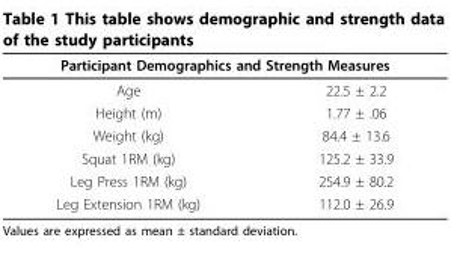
<table><thead><tr><td colspan="2">Participant Demographics and Strength Measures</td></tr><tr><td>Age</td><td>22.5 ± 2.2</td></tr></thead><tbody><tr><td>Height (m)</td><td>1.77 ± .06</td></tr><tr><td>Weight (kg)</td><td>84.4 ± 13.6</td></tr><tr><td>Squat 1RM (kg)</td><td>125.2 ± 33.9</td></tr><tr><td>Leg Press 1RM (kg)</td><td>254.9 ± 80.2</td></tr><tr><td>Leg Extension 1RM (kg)</td><td>112.0 ± 26.9</td></tr></tbody></table>